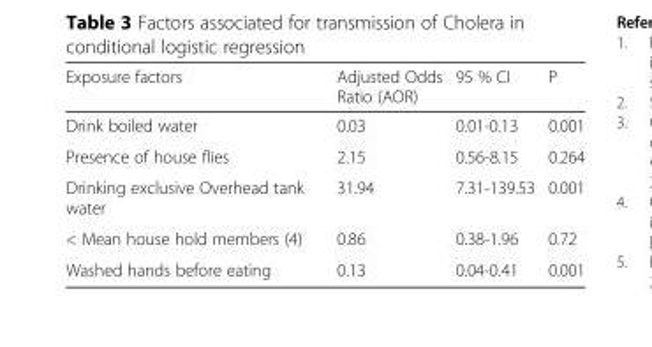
<table><thead><tr><td>Exposure factors</td><td>Adjusted Odds Ratio (AOR)</td><td>95 % CI</td><td>P</td></tr></thead><tbody><tr><td>Drink boiled water</td><td>0.03</td><td>0.01-0.13</td><td>0.001</td></tr><tr><td>Presence of house flies</td><td>2.15</td><td>0.56-8.15</td><td>0.264</td></tr><tr><td>Drinking exclusive Overhead tank water</td><td>31.94</td><td>7.31-139.53</td><td>0.001</td></tr><tr><td>&lt; Mean house hold members (4)</td><td>0.86</td><td>0.38-1.96</td><td>0.72</td></tr><tr><td>Washed hands before eating</td><td>0.13</td><td>0.04-0.41</td><td>0.001</td></tr></tbody></table>